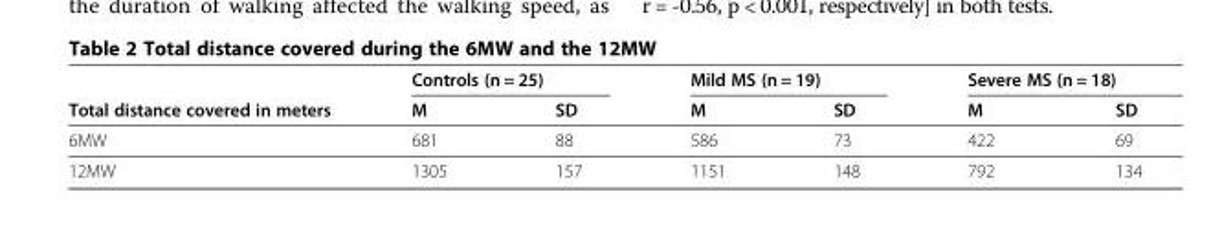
<table><thead><tr><td rowspan="2">Total distance covered in meters</td><td colspan="2">Controls (n = 25)</td><td colspan="2">Mild MS (n = 19)</td><td colspan="2">Severe MS (n = 18)</td></tr><tr><td>M</td><td>SD</td><td>M</td><td>SD</td><td>M</td><td>SD</td></tr></thead><tbody><tr><td>6MW</td><td>681</td><td>88</td><td>586</td><td>73</td><td>422</td><td>69</td></tr><tr><td>12MW</td><td>1305</td><td>157</td><td>1151</td><td>148</td><td>792</td><td>134</td></tr></tbody></table>